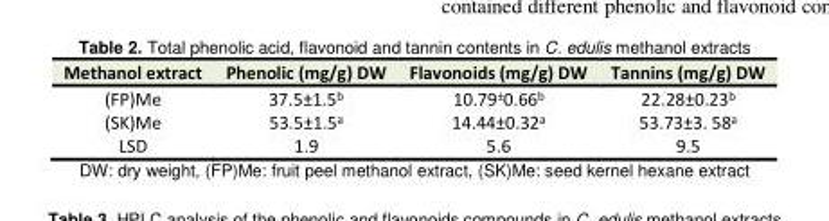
<table><tbody><tr><td>Methanol extract</td><td>Phenolic (mg/g) DW</td><td>Flavonoids (mg/g) DW</td><td>Tannins (mg/g) DW</td></tr><tr><td>(FP)Me</td><td>37.5±1.5<sup>b</sup></td><td>10.79<sup>±</sup>0.66<sup>b</sup></td><td>22.28±0.23<sup>b</sup></td></tr><tr><td>(SK)Me</td><td>53.5±1.5<sup>a</sup></td><td>14.44±0.32<sup>a</sup></td><td>53.73±3. 58<sup>a</sup></td></tr><tr><td>LSD</td><td>1.9</td><td>5.6</td><td>9.5</td></tr></tbody></table>